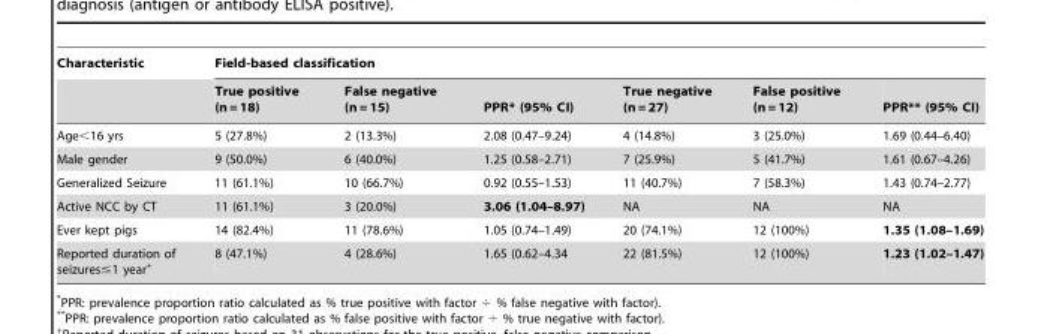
<table><thead><tr><td rowspan="2">Characteristic</td><td colspan="6">Field-based classification</td></tr><tr><td>True positive (n = 18)</td><td>False negative (n = 15)</td><td>PPR* (95% CI)</td><td>True negative (n = 27)</td><td>False positive (n = 12)</td><td>PPR** (95% CI)</td></tr></thead><tbody><tr><td>Age&lt;16 yrs</td><td>5 (27.8%)</td><td>2 (13.3%)</td><td>2.08 (0.47–9.24)</td><td>4 (14.8%)</td><td>3 (25.0%)</td><td>1.69 (0.44–6.40)</td></tr><tr><td>Male gender</td><td>9 (50.0%)</td><td>6 (40.0%)</td><td>1.25 (0.58–2.71)</td><td>7 (25.9%)</td><td>5 (41.7%)</td><td>1.61 (0.67–4.26)</td></tr><tr><td>Generalized Seizure</td><td>11 (61.1%)</td><td>10 (66.7%)</td><td>0.92 (0.55–1.53)</td><td>11 (40.7%)</td><td>7 (58.3%)</td><td>1.43 (0.74–2.77)</td></tr><tr><td>Active NCC by CT</td><td>11 (61.1%)</td><td>3 (20.0%)</td><td>3.06 (1.04–8.97)</td><td>NA</td><td>NA</td><td>NA</td></tr><tr><td>Ever kept pigs</td><td>14 (82.4%)</td><td>11 (78.6%)</td><td>1.05 (0.74–1.49)</td><td>20 (74.1%)</td><td>12 (100%)</td><td>1.35 (1.08–1.69)</td></tr><tr><td>Reported duration of seizures≤1 year+</td><td>8 (47.1%)</td><td>4 (28.6%)</td><td>1.65 (0.62–4.34</td><td>22 (81.5%)</td><td>12 (100%)</td><td>1.23 (1.02–1.47)</td></tr></tbody></table>